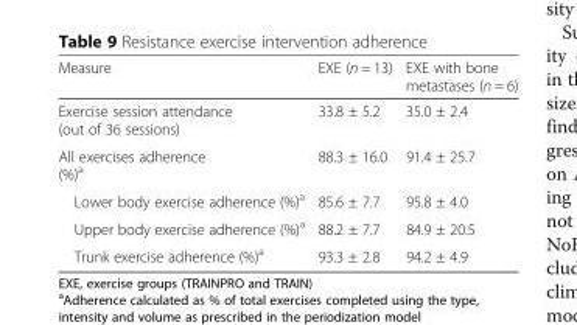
<table><thead><tr><td>Measure</td><td>EXE (n = 13)</td><td>EXE with bone metastases (n = 6)</td></tr></thead><tbody><tr><td>Exercise session attendance (out of 36 sessions)</td><td>33.8 ± 5.2</td><td>35.0 ± 2.4</td></tr><tr><td>All exercises adherence (%)<sup>a</sup></td><td>88.3 ± 16.0</td><td>91.4 ± 25.7</td></tr><tr><td>Lower body exercise adherence (%)<sup>a</sup></td><td>85.6 ± 7.7</td><td>95.8 ± 4.0</td></tr><tr><td>Upper body exercise adherence (%)<sup>a</sup></td><td>88.2 ± 7.7</td><td>84.9 ± 20.5</td></tr><tr><td>Trunk exercise adherence (%)<sup>a</sup></td><td>93.3 ± 2.8</td><td>94.2 ± 4.9</td></tr></tbody></table>